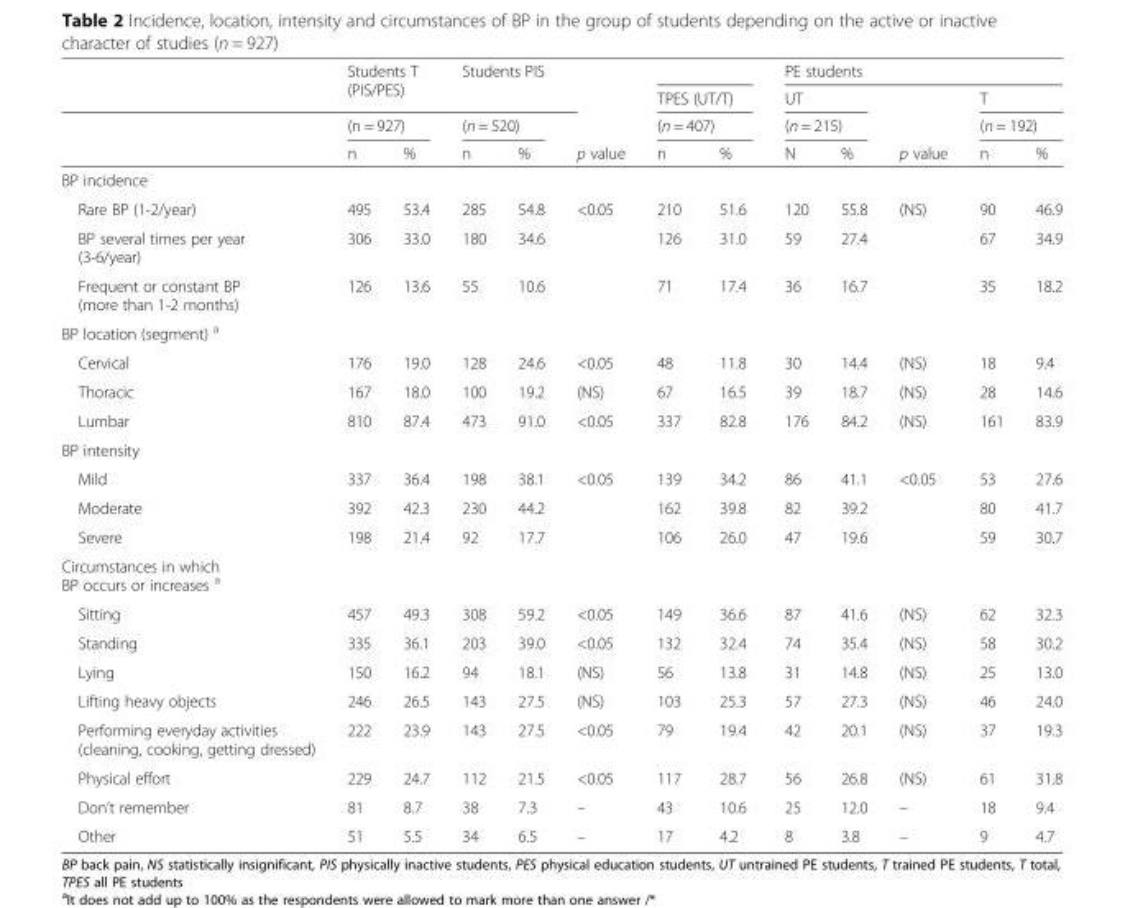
<table><thead><tr><td rowspan="4"></td><td rowspan="3" colspan="2">Students T (PIS/PES) (n = 927)</td><td rowspan="3" colspan="2">Students PIS (n = 520)</td><td rowspan="4">p value</td><td></td><td></td><td colspan="5">PE students</td></tr><tr><td rowspan="2" colspan="2">TPES (UT/T) (n = 407)</td><td rowspan="2" colspan="2">UT (n = 215)</td><td rowspan="3">p value</td><td rowspan="2" colspan="2">T (n = 192)</td></tr><tr></tr><tr><td>n</td><td>%</td><td>n</td><td>%</td><td>n</td><td>%</td><td>N</td><td>%</td><td>n</td><td>%</td></tr></thead><tbody><tr><td colspan="13">BP incidence</td></tr><tr><td>Rare BP (1-2/year)</td><td>495</td><td>53.4</td><td>285</td><td>54.8</td><td rowspan="3">&lt;0.05</td><td>210</td><td>51.6</td><td>120</td><td>55.8</td><td rowspan="3">(NS)</td><td>90</td><td>46.9</td></tr><tr><td>BP several times per year (3-6/year)</td><td>306</td><td>33.0</td><td>180</td><td>34.6</td><td>126</td><td>31.0</td><td>59</td><td>27.4</td><td>67</td><td>34.9</td></tr><tr><td>Frequent or constant BP (more than 1-2 months)</td><td>126</td><td>13.6</td><td>55</td><td>10.6</td><td>71</td><td>17.4</td><td>36</td><td>16.7</td><td>35</td><td>18.2</td></tr><tr><td colspan="13">BP location (segment) <sup>a</sup></td></tr><tr><td>Cervical</td><td>176</td><td>19.0</td><td>128</td><td>24.6</td><td>&lt;0.05</td><td>48</td><td>11.8</td><td>30</td><td>14.4</td><td>(NS)</td><td>18</td><td>9.4</td></tr><tr><td>Thoracic</td><td>167</td><td>18.0</td><td>100</td><td>19.2</td><td>(NS)</td><td>67</td><td>16.5</td><td>39</td><td>18.7</td><td>(NS)</td><td>28</td><td>14.6</td></tr><tr><td>Lumbar</td><td>810</td><td>87.4</td><td>473</td><td>91.0</td><td>&lt;0.05</td><td>337</td><td>82.8</td><td>176</td><td>84.2</td><td>(NS)</td><td>161</td><td>83.9</td></tr><tr><td colspan="13">BP intensity</td></tr><tr><td>Mild</td><td>337</td><td>36.4</td><td>198</td><td>38.1</td><td rowspan="3">&lt;0.05</td><td>139</td><td>34.2</td><td>86</td><td>41.1</td><td rowspan="3">&lt;0.05</td><td>53</td><td>27.6</td></tr><tr><td>Moderate</td><td>392</td><td>42.3</td><td>230</td><td>44.2</td><td>162</td><td>39.8</td><td>82</td><td>39.2</td><td>80</td><td>41.7</td></tr><tr><td>Severe</td><td>198</td><td>21.4</td><td>92</td><td>17.7</td><td>106</td><td>26.0</td><td>47</td><td>19.6</td><td>59</td><td>30.7</td></tr><tr><td colspan="13">Circumstances in which BP occurs or increases <sup>a</sup></td></tr><tr><td>Sitting</td><td>457</td><td>49.3</td><td>308</td><td>59.2</td><td>&lt;0.05</td><td>149</td><td>36.6</td><td>87</td><td>41.6</td><td>(NS)</td><td>62</td><td>32.3</td></tr><tr><td>Standing</td><td>335</td><td>36.1</td><td>203</td><td>39.0</td><td>&lt;0.05</td><td>132</td><td>32.4</td><td>74</td><td>35.4</td><td>(NS)</td><td>58</td><td>30.2</td></tr><tr><td>Lying</td><td>150</td><td>16.2</td><td>94</td><td>18.1</td><td>(NS)</td><td>56</td><td>13.8</td><td>31</td><td>14.8</td><td>(NS)</td><td>25</td><td>13.0</td></tr><tr><td>Lifting heavy objects</td><td>246</td><td>26.5</td><td>143</td><td>27.5</td><td>(NS)</td><td>103</td><td>25.3</td><td>57</td><td>27.3</td><td>(NS)</td><td>46</td><td>24.0</td></tr><tr><td>Performing everyday activities (cleaning, cooking, getting dressed)</td><td>222</td><td>23.9</td><td>143</td><td>27.5</td><td>&lt;0.05</td><td>79</td><td>19.4</td><td>42</td><td>20.1</td><td>(NS)</td><td>37</td><td>19.3</td></tr><tr><td>Physical effort</td><td>229</td><td>24.7</td><td>112</td><td>21.5</td><td>&lt;0.05</td><td>117</td><td>28.7</td><td>56</td><td>26.8</td><td>(NS)</td><td>61</td><td>31.8</td></tr><tr><td>Don’t remember</td><td>81</td><td>8.7</td><td>38</td><td>7.3</td><td>–</td><td>43</td><td>10.6</td><td>25</td><td>12.0</td><td>–</td><td>18</td><td>9.4</td></tr><tr><td>Other</td><td>51</td><td>5.5</td><td>34</td><td>6.5</td><td>–</td><td>17</td><td>4.2</td><td>8</td><td>3.8</td><td>–</td><td>9</td><td>4.7</td></tr></tbody></table>